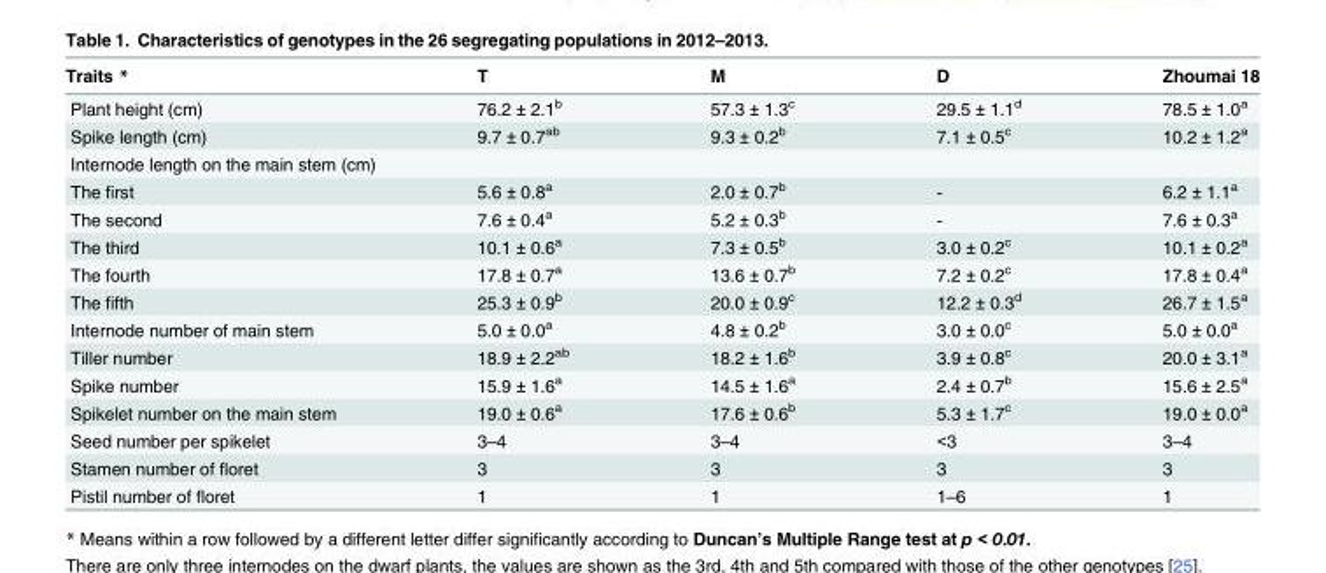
<table><thead><tr><td>Traits *</td><td>T</td><td>M</td><td>D</td><td>Zhoumai 18</td></tr></thead><tbody><tr><td>Plant height (cm)</td><td>76.2 ± 2.1<sup>b</sup></td><td>57.3 ± 1.3<sup>c</sup></td><td>29.5 ± 1.1<sup>d</sup></td><td>78.5 ± 1.0<sup>a</sup></td></tr><tr><td>Spike length (cm)</td><td>9.7 ± 0.7<sup>ab</sup></td><td>9.3 ± 0.2<sup>b</sup></td><td>7.1 ± 0.5<sup>c</sup></td><td>10.2 ± 1.2<sup>a</sup></td></tr><tr><td colspan="5">Internode length on the main stem (cm)</td></tr><tr><td>The first</td><td>5.6 ± 0.8<sup>a</sup></td><td>2.0 ± 0.7<sup>b</sup></td><td>-</td><td>6.2 ± 1.1<sup>a</sup></td></tr><tr><td>The second</td><td>7.6 ± 0.4<sup>a</sup></td><td>5.2 ± 0.3<sup>b</sup></td><td>-</td><td>7.6 ± 0.3<sup>a</sup></td></tr><tr><td>The third</td><td>10.1 ± 0.6<sup>a</sup></td><td>7.3 ± 0.5<sup>b</sup></td><td>3.0 ± 0.2<sup>c</sup></td><td>10.1 ± 0.2<sup>a</sup></td></tr><tr><td>The fourth</td><td>17.8 ± 0.7<sup>a</sup></td><td>13.6 ± 0.7<sup>b</sup></td><td>7.2 ± 0.2<sup>c</sup></td><td>17.8 ± 0.4<sup>a</sup></td></tr><tr><td>The fifth</td><td>25.3 ± 0.9<sup>b</sup></td><td>20.0 ± 0.9<sup>c</sup></td><td>12.2 ± 0.3<sup>d</sup></td><td>26.7 ± 1.5<sup>a</sup></td></tr><tr><td>Internode number of main stem</td><td>5.0 ± 0.0<sup>a</sup></td><td>4.8 ± 0.2<sup>b</sup></td><td>3.0 ± 0.0<sup>c</sup></td><td>5.0 ± 0.0<sup>a</sup></td></tr><tr><td>Tiller number</td><td>18.9 ± 2.2<sup>ab</sup></td><td>18.2 ± 1.6<sup>b</sup></td><td>3.9 ± 0.8<sup>c</sup></td><td>20.0 ± 3.1<sup>a</sup></td></tr><tr><td>Spike number</td><td>15.9 ± 1.6<sup>a</sup></td><td>14.5 ± 1.6<sup>a</sup></td><td>2.4 ± 0.7<sup>b</sup></td><td>15.6 ± 2.5<sup>a</sup></td></tr><tr><td>Spikelet number on the main stem</td><td>19.0 ± 0.6<sup>a</sup></td><td>17.6 ± 0.6<sup>b</sup></td><td>5.3 ± 1.7<sup>c</sup></td><td>19.0 ± 0.0<sup>a</sup></td></tr><tr><td>Seed number per spikelet</td><td>3–4</td><td>3–4</td><td>&lt;3</td><td>3–4</td></tr><tr><td>Stamen number of floret</td><td>3</td><td>3</td><td>3</td><td>3</td></tr><tr><td>Pistil number of floret</td><td>1</td><td>1</td><td>1–6</td><td>1</td></tr></tbody></table>